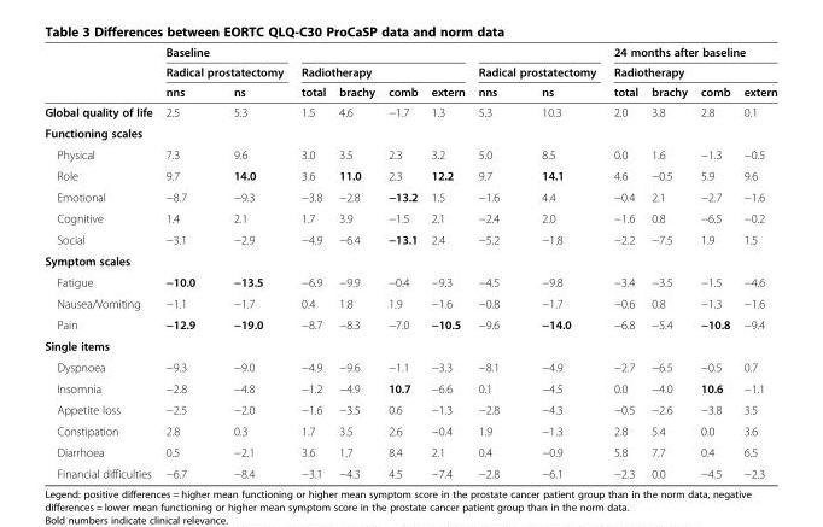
<table><thead><tr><td rowspan="3"></td><td rowspan="2" colspan="2">Baseline Radical prostatectomy</td><td></td><td></td><td></td><td></td><td></td><td></td><td rowspan="2" colspan="4">24 months after baseline Radiotherapy</td></tr><tr><td colspan="4">Radiotherapy</td><td colspan="2">Radical prostatectomy</td></tr><tr><td>nns</td><td>ns</td><td>total</td><td>brachy</td><td>comb</td><td>extern</td><td>nns</td><td>ns</td><td>total</td><td>brachy</td><td>comb</td><td>extern</td></tr></thead><tbody><tr><td>Global quality of life</td><td>2.5</td><td>5.3</td><td>1.5</td><td>4.6</td><td>−1.7</td><td>1.3</td><td>5.3</td><td>10.3</td><td>2.0</td><td>3.8</td><td>2.8</td><td>0.1</td></tr><tr><td colspan="13">Functioning scales</td></tr><tr><td>Physical</td><td>7.3</td><td>9.6</td><td>3.0</td><td>3.5</td><td>2.3</td><td>3.2</td><td>5.0</td><td>8.5</td><td>0.0</td><td>1.6</td><td>−1.3</td><td>−0.5</td></tr><tr><td>Role</td><td>9.7</td><td>14.0</td><td>3.6</td><td>11.0</td><td>2.3</td><td>12.2</td><td>9.7</td><td>14.1</td><td>4.6</td><td>−0.5</td><td>5.9</td><td>9.6</td></tr><tr><td>Emotional</td><td>−8.7</td><td>−9.3</td><td>−3.8</td><td>−2.8</td><td>−13.2</td><td>1.5</td><td>−1.6</td><td>4.4</td><td>−0.4</td><td>2.1</td><td>−2.7</td><td>−1.6</td></tr><tr><td>Cognitive</td><td>1.4</td><td>2.1</td><td>1.7</td><td>3.9</td><td>−1.5</td><td>2.1</td><td>−2.4</td><td>2.0</td><td>−1.6</td><td>0.8</td><td>−6.5</td><td>−0.2</td></tr><tr><td>Social</td><td>−3.1</td><td>−2.9</td><td>−4.9</td><td>−6.4</td><td>−13.1</td><td>2.4</td><td>−5.2</td><td>−1.8</td><td>−2.2</td><td>−7.5</td><td>1.9</td><td>1.5</td></tr><tr><td colspan="13">Symptom scales</td></tr><tr><td>Fatigue</td><td>−10.0</td><td>−13.5</td><td>−6.9</td><td>−9.9</td><td>−0.4</td><td>−9.3</td><td>−4.5</td><td>−9.8</td><td>−3.4</td><td>−3.5</td><td>−1.5</td><td>−4.6</td></tr><tr><td>Nausea/Vomiting</td><td>−1.1</td><td>−1.7</td><td>0.4</td><td>1.8</td><td>1.9</td><td>−1.6</td><td>−0.8</td><td>−1.7</td><td>−0.6</td><td>0.8</td><td>−1.3</td><td>−1.6</td></tr><tr><td>Pain</td><td>−12.9</td><td>−19.0</td><td>−8.7</td><td>−8.3</td><td>−7.0</td><td>−10.5</td><td>−9.6</td><td>−14.0</td><td>−6.8</td><td>−5.4</td><td>−10.8</td><td>−9.4</td></tr><tr><td colspan="13">Single items</td></tr><tr><td>Dyspnoea</td><td>−9.3</td><td>−9.0</td><td>−4.9</td><td>−9.6</td><td>−1.1</td><td>−3.3</td><td>−8.1</td><td>−4.9</td><td>−2.7</td><td>−6.5</td><td>−0.5</td><td>0.7</td></tr><tr><td>Insomnia</td><td>−2.8</td><td>−4.8</td><td>−1.2</td><td>−4.9</td><td>10.7</td><td>−6.6</td><td>0.1</td><td>−4.5</td><td>0.0</td><td>−4.0</td><td>10.6</td><td>−1.1</td></tr><tr><td>Appetite loss</td><td>−2.5</td><td>−2.0</td><td>−1.6</td><td>−3.5</td><td>0.6</td><td>−1.3</td><td>−2.8</td><td>−4.3</td><td>−0.5</td><td>−2.6</td><td>−3.8</td><td>3.5</td></tr><tr><td>Constipation</td><td>2.8</td><td>0.3</td><td>1.7</td><td>3.5</td><td>2.6</td><td>−0.4</td><td>1.9</td><td>−1.3</td><td>2.8</td><td>5.4</td><td>0.0</td><td>3.6</td></tr><tr><td>Diarrhoea</td><td>0.5</td><td>−2.1</td><td>3.6</td><td>1.7</td><td>8.4</td><td>2.1</td><td>0.4</td><td>−0.9</td><td>5.8</td><td>7.7</td><td>0.4</td><td>6.5</td></tr><tr><td>Financial difficulties</td><td>−6.7</td><td>−8.4</td><td>−3.1</td><td>−4.3</td><td>4.5</td><td>−7.4</td><td>−2.8</td><td>−6.1</td><td>−2.3</td><td>0.0</td><td>−4.5</td><td>−2.3</td></tr></tbody></table>